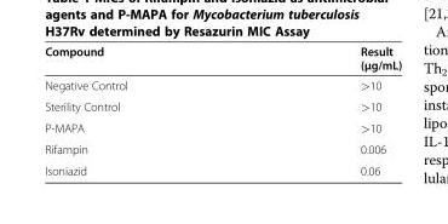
<table><thead><tr><td>Compound</td><td>Result (μg/mL)</td></tr></thead><tbody><tr><td>Negative Control</td><td>&gt;10</td></tr><tr><td>Sterility Control</td><td>&gt;10</td></tr><tr><td>P-MAPA</td><td>&gt;10</td></tr><tr><td>Rifampin</td><td>0.006</td></tr><tr><td>Isoniazid</td><td>0.06</td></tr></tbody></table>